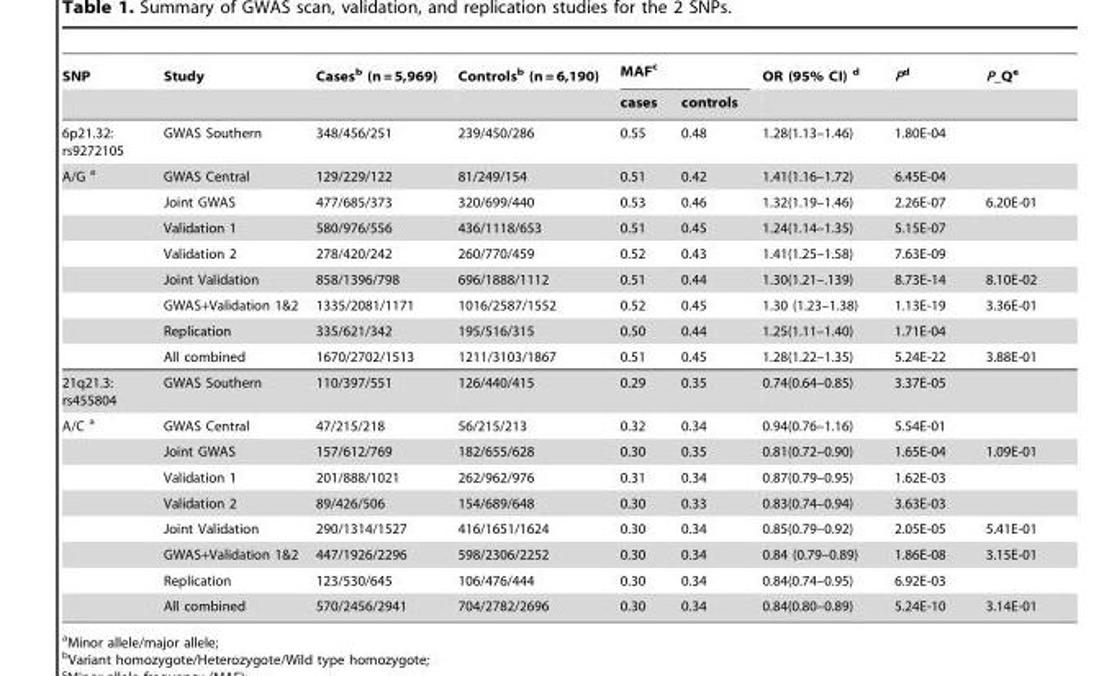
<table><thead><tr><td rowspan="2">SNP</td><td rowspan="2">Study</td><td rowspan="2">Cases<sup>b</sup> (n = 5,969)</td><td rowspan="2">Controls<sup>b</sup> (n = 6,190)</td><td colspan="2">MAF<sup>c</sup></td><td rowspan="2">OR (95% CI) d</td><td rowspan="2">Pd</td><td rowspan="2">P_Q<sup>e</sup></td></tr><tr><td>cases</td><td>controls</td></tr></thead><tbody><tr><td>6p21.32: rs9272105</td><td>GWAS Southern</td><td>348/456/251</td><td>239/450/286</td><td>0.55</td><td>0.48</td><td>1.28(1.13–1.46)</td><td>1.80E-04</td><td></td></tr><tr><td rowspan="8">A/G a</td><td>GWAS Central</td><td>129/229/122</td><td>81/249/154</td><td>0.51</td><td>0.42</td><td>1.41(1.16–1.72)</td><td>6.45E-04</td><td></td></tr><tr><td>Joint GWAS</td><td>477/685/373</td><td>320/699/440</td><td>0.53</td><td>0.46</td><td>1.32(1.19–1.46)</td><td>2.26E-07</td><td>6.20E-01</td></tr><tr><td>Validation 1</td><td>580/976/556</td><td>436/1118/653</td><td>0.51</td><td>0.45</td><td>1.24(1.14–1.35)</td><td>5.15E-07</td><td></td></tr><tr><td>Validation 2</td><td>278/420/242</td><td>260/770/459</td><td>0.52</td><td>0.43</td><td>1.41(1.25–1.58)</td><td>7.63E-09</td><td></td></tr><tr><td>Joint Validation</td><td>858/1396/798</td><td>696/1888/1112</td><td>0.51</td><td>0.44</td><td>1.30(1.21–.139)</td><td>8.73E-14</td><td>8.10E-02</td></tr><tr><td>GWAS+Validation 1&amp;2</td><td>1335/2081/1171</td><td>1016/2587/1552</td><td>0.52</td><td>0.45</td><td>1.30 (1.23–1.38)</td><td>1.13E-19</td><td>3.36E-01</td></tr><tr><td>Replication</td><td>335/621/342</td><td>195/516/315</td><td>0.50</td><td>0.44</td><td>1.25(1.11–1.40)</td><td>1.71E-04</td><td></td></tr><tr><td>All combined</td><td>1670/2702/1513</td><td>1211/3103/1867</td><td>0.51</td><td>0.45</td><td>1.28(1.22–1.35)</td><td>5.24E-22</td><td>3.88E-01</td></tr><tr><td>21q21.3: rs455804</td><td>GWAS Southern</td><td>110/397/551</td><td>126/440/415</td><td>0.29</td><td>0.35</td><td>0.74(0.64–0.85)</td><td>3.37E-05</td><td></td></tr><tr><td rowspan="8">A/C a</td><td>GWAS Central</td><td>47/215/218</td><td>56/215/213</td><td>0.32</td><td>0.34</td><td>0.94(0.76–1.16)</td><td>5.54E-01</td><td></td></tr><tr><td>Joint GWAS</td><td>157/612/769</td><td>182/655/628</td><td>0.30</td><td>0.35</td><td>0.81(0.72–0.90)</td><td>1.65E-04</td><td>1.09E-01</td></tr><tr><td>Validation 1</td><td>201/888/1021</td><td>262/962/976</td><td>0.31</td><td>0.34</td><td>0.87(0.79–0.95)</td><td>1.62E-03</td><td></td></tr><tr><td>Validation 2</td><td>89/426/506</td><td>154/689/648</td><td>0.30</td><td>0.33</td><td>0.83(0.74–0.94)</td><td>3.63E-03</td><td></td></tr><tr><td>Joint Validation</td><td>290/1314/1527</td><td>416/1651/1624</td><td>0.30</td><td>0.34</td><td>0.85(0.79–0.92)</td><td>2.05E-05</td><td>5.41E-01</td></tr><tr><td>GWAS+Validation 1&amp;2</td><td>447/1926/2296</td><td>598/2306/2252</td><td>0.30</td><td>0.34</td><td>0.84 (0.79–0.89)</td><td>1.86E-08</td><td>3.15E-01</td></tr><tr><td>Replication</td><td>123/530/645</td><td>106/476/444</td><td>0.30</td><td>0.34</td><td>0.84(0.74–0.95)</td><td>6.92E-03</td><td></td></tr><tr><td>All combined</td><td>570/2456/2941</td><td>704/2782/2696</td><td>0.30</td><td>0.34</td><td>0.84(0.80–0.89)</td><td>5.24E-10</td><td>3.14E-01</td></tr></tbody></table>